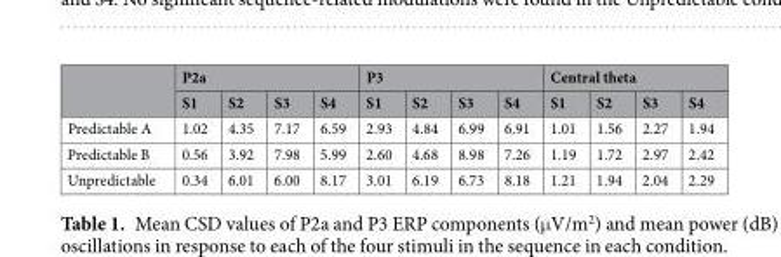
<table><thead><tr><td rowspan="2"></td><td colspan="4">P2a</td><td colspan="4">P3</td><td colspan="4">Central theta</td></tr><tr><td>S1</td><td>S2</td><td>S3</td><td>S4</td><td>S1</td><td>S2</td><td>S3</td><td>S4</td><td>S1</td><td>S2</td><td>S3</td><td>S4</td></tr></thead><tbody><tr><td>Predictable A</td><td>1.02</td><td>4.35</td><td>7.17</td><td>6.59</td><td>2.93</td><td>4.84</td><td>6.99</td><td>6.91</td><td>1.01</td><td>1.56</td><td>2.27</td><td>1.94</td></tr><tr><td>Predictable B</td><td>0.56</td><td>3.92</td><td>7.98</td><td>5.99</td><td>2.60</td><td>4.68</td><td>8.98</td><td>7.26</td><td>1.19</td><td>1.72</td><td>2.97</td><td>2.42</td></tr><tr><td>Unpredictable</td><td>0.34</td><td>6.01</td><td>6.00</td><td>8.17</td><td>3.01</td><td>6.19</td><td>6.73</td><td>8.18</td><td>1.21</td><td>1.94</td><td>2.04</td><td>2.29</td></tr></tbody></table>